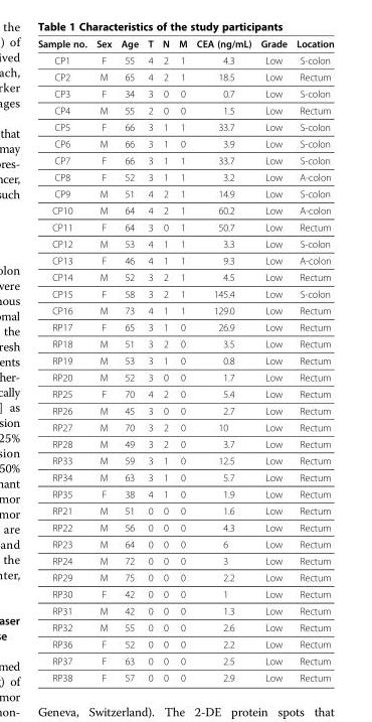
<table><thead><tr><td>Sample no.</td><td>Sex</td><td>Age</td><td>T</td><td>N</td><td>M</td><td>CEA (ng/mL)</td><td>Grade</td><td>Location</td></tr></thead><tbody><tr><td>CP1</td><td>F</td><td>55</td><td>4</td><td>2</td><td>1</td><td>4.3</td><td>Low</td><td>S-colon</td></tr><tr><td>CP2</td><td>M</td><td>65</td><td>4</td><td>2</td><td>1</td><td>18.5</td><td>Low</td><td>Rectum</td></tr><tr><td>CP3</td><td>F</td><td>34</td><td>3</td><td>0</td><td>0</td><td>0.7</td><td>Low</td><td>S-colon</td></tr><tr><td>CP4</td><td>M</td><td>55</td><td>2</td><td>0</td><td>0</td><td>1.5</td><td>Low</td><td>Rectum</td></tr><tr><td>CP5</td><td>F</td><td>66</td><td>3</td><td>1</td><td>1</td><td>33.7</td><td>Low</td><td>S-colon</td></tr><tr><td>CP6</td><td>M</td><td>66</td><td>3</td><td>1</td><td>0</td><td>3.9</td><td>Low</td><td>S-colon</td></tr><tr><td>CP7</td><td>F</td><td>66</td><td>3</td><td>1</td><td>1</td><td>33.7</td><td>Low</td><td>S-colon</td></tr><tr><td>CP8</td><td>F</td><td>52</td><td>3</td><td>1</td><td>1</td><td>3.2</td><td>Low</td><td>A-colon</td></tr><tr><td>CP9</td><td>M</td><td>51</td><td>4</td><td>2</td><td>1</td><td>14.9</td><td>Low</td><td>S-colon</td></tr><tr><td>CP10</td><td>M</td><td>64</td><td>4</td><td>2</td><td>1</td><td>60.2</td><td>Low</td><td>A-colon</td></tr><tr><td>CP11</td><td>F</td><td>64</td><td>3</td><td>0</td><td>1</td><td>50.7</td><td>Low</td><td>Rectum</td></tr><tr><td>CP12</td><td>M</td><td>53</td><td>4</td><td>1</td><td>1</td><td>3.3</td><td>Low</td><td>S-colon</td></tr><tr><td>CP13</td><td>F</td><td>46</td><td>4</td><td>1</td><td>1</td><td>9.3</td><td>Low</td><td>A-colon</td></tr><tr><td>CP14</td><td>M</td><td>52</td><td>3</td><td>2</td><td>1</td><td>4.5</td><td>Low</td><td>Rectum</td></tr><tr><td>CP15</td><td>F</td><td>58</td><td>3</td><td>2</td><td>1</td><td>145.4</td><td>Low</td><td>S-colon</td></tr><tr><td>CP16</td><td>M</td><td>73</td><td>4</td><td>1</td><td>1</td><td>129.0</td><td>Low</td><td>Rectum</td></tr><tr><td>RP17</td><td>F</td><td>65</td><td>3</td><td>1</td><td>0</td><td>26.9</td><td>Low</td><td>Rectum</td></tr><tr><td>RP18</td><td>M</td><td>51</td><td>3</td><td>2</td><td>0</td><td>3.5</td><td>Low</td><td>Rectum</td></tr><tr><td>RP19</td><td>M</td><td>53</td><td>3</td><td>1</td><td>0</td><td>0.8</td><td>Low</td><td>Rectum</td></tr><tr><td>RP20</td><td>M</td><td>52</td><td>3</td><td>0</td><td>0</td><td>1.7</td><td>Low</td><td>Rectum</td></tr><tr><td>RP25</td><td>F</td><td>70</td><td>4</td><td>2</td><td>0</td><td>5.4</td><td>Low</td><td>Rectum</td></tr><tr><td>RP26</td><td>M</td><td>45</td><td>3</td><td>0</td><td>0</td><td>2.7</td><td>Low</td><td>Rectum</td></tr><tr><td>RP27</td><td>M</td><td>70</td><td>3</td><td>2</td><td>0</td><td>10</td><td>Low</td><td>Rectum</td></tr><tr><td>RP28</td><td>M</td><td>49</td><td>3</td><td>2</td><td>0</td><td>3.7</td><td>Low</td><td>Rectum</td></tr><tr><td>RP33</td><td>M</td><td>59</td><td>3</td><td>1</td><td>0</td><td>12.5</td><td>Low</td><td>Rectum</td></tr><tr><td>RP34</td><td>M</td><td>63</td><td>3</td><td>1</td><td>0</td><td>5.7</td><td>Low</td><td>Rectum</td></tr><tr><td>RP35</td><td>F</td><td>38</td><td>4</td><td>1</td><td>0</td><td>1.9</td><td>Low</td><td>Rectum</td></tr><tr><td>RP21</td><td>M</td><td>51</td><td>0</td><td>0</td><td>0</td><td>1.6</td><td>Low</td><td>Rectum</td></tr><tr><td>RP22</td><td>M</td><td>56</td><td>0</td><td>0</td><td>0</td><td>4.3</td><td>Low</td><td>Rectum</td></tr><tr><td>RP23</td><td>M</td><td>64</td><td>0</td><td>0</td><td>0</td><td>6</td><td>Low</td><td>Rectum</td></tr><tr><td>RP24</td><td>M</td><td>72</td><td>0</td><td>0</td><td>0</td><td>3</td><td>Low</td><td>Rectum</td></tr><tr><td>RP29</td><td>M</td><td>75</td><td>0</td><td>0</td><td>0</td><td>2.2</td><td>Low</td><td>Rectum</td></tr><tr><td>RP30</td><td>F</td><td>42</td><td>0</td><td>0</td><td>0</td><td>1</td><td>Low</td><td>Rectum</td></tr><tr><td>RP31</td><td>M</td><td>42</td><td>0</td><td>0</td><td>0</td><td>1.3</td><td>Low</td><td>Rectum</td></tr><tr><td>RP32</td><td>M</td><td>55</td><td>0</td><td>0</td><td>0</td><td>2.6</td><td>Low</td><td>Rectum</td></tr><tr><td>RP36</td><td>F</td><td>52</td><td>0</td><td>0</td><td>0</td><td>2.2</td><td>Low</td><td>Rectum</td></tr><tr><td>RP37</td><td>F</td><td>63</td><td>0</td><td>0</td><td>0</td><td>2.5</td><td>Low</td><td>Rectum</td></tr><tr><td>RP38</td><td>F</td><td>57</td><td>0</td><td>0</td><td>0</td><td>2.9</td><td>Low</td><td>Rectum</td></tr></tbody></table>